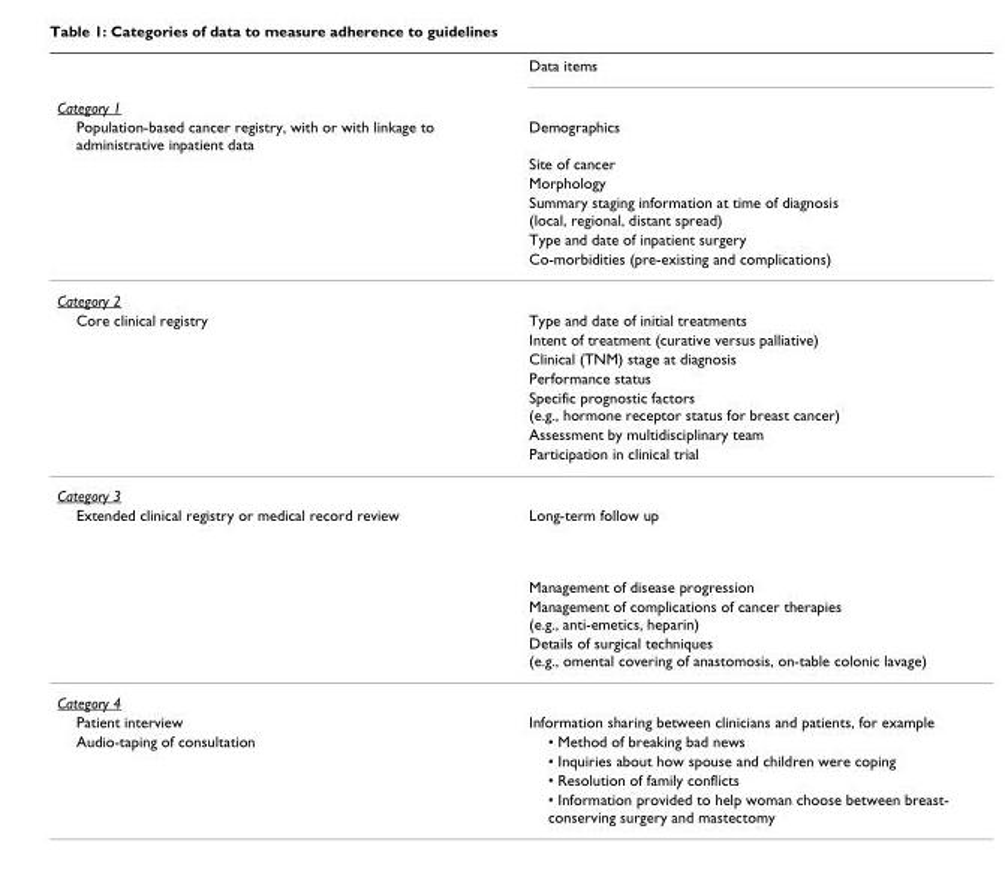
<table><thead><tr><td rowspan="8">Category 1 Population-based cancer registry, with or with linkage to administrative inpatient data</td><td rowspan="8">Data items Demographics Site of cancer Morphology Summary staging information at time of diagnosis (local, regional, distant spread) Type and date of inpatient surgery Co-morbidities (pre-existing and complications)</td></tr><tr></tr><tr></tr><tr></tr><tr></tr><tr></tr><tr></tr><tr></tr></thead><tbody><tr><td colspan="2">Category 2</td></tr><tr><td rowspan="7">Core clinical registry</td><td>Type and date of initial treatments</td></tr><tr><td>Intent of treatment (curative versus palliative)</td></tr><tr><td>Clinical (TNM) stage at diagnosis</td></tr><tr><td>Performance status</td></tr><tr><td>Specific prognostic factors (e.g., hormone receptor status for breast cancer)</td></tr><tr><td>Assessment by multidisciplinary team</td></tr><tr><td>Participation in clinical trial</td></tr><tr><td colspan="2">Category 3</td></tr><tr><td rowspan="4">Extended clinical registry or medical record review</td><td>Long-term follow up</td></tr><tr><td>Management of disease progression</td></tr><tr><td>Management of complications of cancer therapies (e.g., anti-emetics, heparin)</td></tr><tr><td>Details of surgical techniques (e.g., omental covering of anastomosis, on-table colonic lavage)</td></tr><tr><td colspan="2">Category 4</td></tr><tr><td>Patient interview</td><td>Information sharing between clinicians and patients, for example</td></tr><tr><td rowspan="4">Audio-taping of consultation</td><td>• Method of breaking bad news</td></tr><tr><td>• Inquiries about how spouse and children were coping</td></tr><tr><td>• Resolution of family conflicts</td></tr><tr><td>• Information provided to help woman choose between breast- conserving surgery and mastectomy</td></tr></tbody></table>